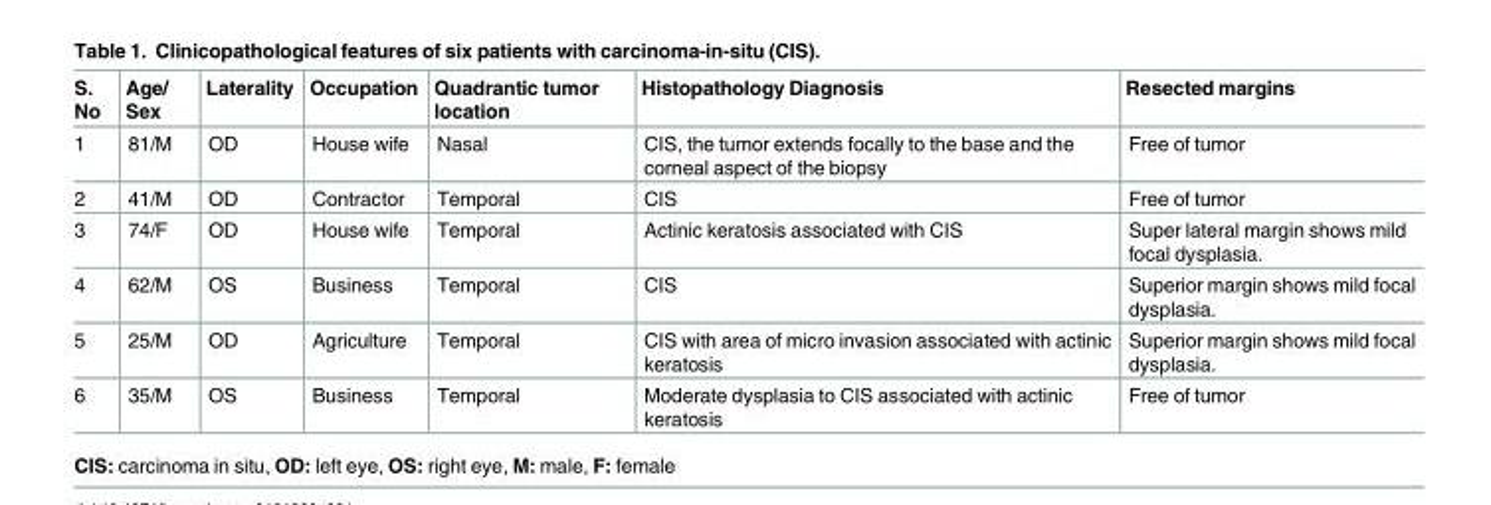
<table><thead><tr><td>S. No</td><td>Age/ Sex</td><td>Laterality</td><td>Occupation</td><td>Quadrantic tumor location</td><td>Histopathology Diagnosis</td><td>Resected margins</td></tr></thead><tbody><tr><td>1</td><td>81/M</td><td>OD</td><td>House wife</td><td>Nasal</td><td>CIS, the tumor extends focally to the base and the corneal aspect of the biopsy</td><td>Free of tumor</td></tr><tr><td>2</td><td>41/M</td><td>OD</td><td>Contractor</td><td>Temporal</td><td>CIS</td><td>Free of tumor</td></tr><tr><td>3</td><td>74/F</td><td>OD</td><td>House wife</td><td>Temporal</td><td>Actinic keratosis associated with CIS</td><td>Super lateral margin shows mild focal dysplasia.</td></tr><tr><td>4</td><td>62/M</td><td>OS</td><td>Business</td><td>Temporal</td><td>CIS</td><td>Superior margin shows mild focal dysplasia.</td></tr><tr><td>5</td><td>25/M</td><td>OD</td><td>Agriculture</td><td>Temporal</td><td>CIS with area of micro invasion associated with actinic keratosis</td><td>Superior margin shows mild focal dysplasia.</td></tr><tr><td>6</td><td>35/M</td><td>OS</td><td>Business</td><td>Temporal</td><td>Moderate dysplasia to CIS associated with actinic keratosis</td><td>Free of tumor</td></tr></tbody></table>